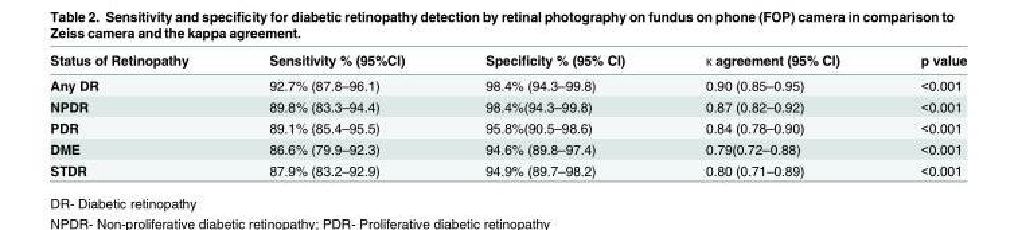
<table><thead><tr><td>Status of Retinopathy</td><td>Sensitivity % (95%CI)</td><td>Specificity % (95% CI)</td><td>ĸ agreement (95% CI)</td><td>p value</td></tr></thead><tbody><tr><td>Any DR</td><td>92.7% (87.8–96.1)</td><td>98.4% (94.3–99.8)</td><td>0.90 (0.85–0.95)</td><td>&lt;0.001</td></tr><tr><td>NPDR</td><td>89.8% (83.3–94.4)</td><td>98.4%(94.3–99.8)</td><td>0.87 (0.82–0.92)</td><td>&lt;0.001</td></tr><tr><td>PDR</td><td>89.1% (85.4–95.5)</td><td>95.8%(90.5–98.6)</td><td>0.84 (0.78–0.90)</td><td>&lt;0.001</td></tr><tr><td>DME</td><td>86.6% (79.9–92.3)</td><td>94.6% (89.8–97.4)</td><td>0.79(0.72–0.88)</td><td>&lt;0.001</td></tr><tr><td>STDR</td><td>87.9% (83.2–92.9)</td><td>94.9% (89.7–98.2)</td><td>0.80 (0.71–0.89)</td><td>&lt;0.001</td></tr></tbody></table>